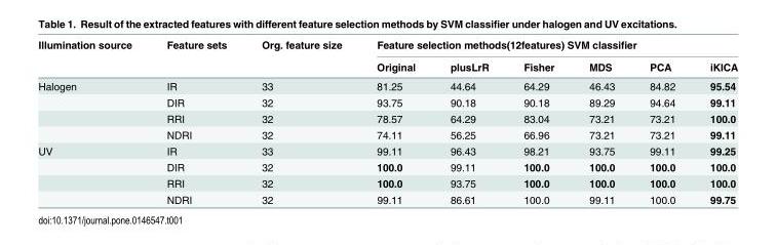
<table><thead><tr><td rowspan="2">Illumination source</td><td rowspan="2">Feature sets</td><td rowspan="2">Org. feature size</td><td colspan="6">Feature selection methods(12features) SVM classifier</td></tr><tr><td>Original</td><td>plusLrR</td><td>Fisher</td><td>MDS</td><td>PCA</td><td>iKICA</td></tr></thead><tbody><tr><td rowspan="4">Halogen</td><td>IR</td><td>33</td><td>81.25</td><td>44.64</td><td>64.29</td><td>46.43</td><td>84.82</td><td>95.54</td></tr><tr><td>DIR</td><td>32</td><td>93.75</td><td>90.18</td><td>90.18</td><td>89.29</td><td>94.64</td><td>99.11</td></tr><tr><td>RRI</td><td>32</td><td>78.57</td><td>64.29</td><td>83.04</td><td>73.21</td><td>73.21</td><td>100.0</td></tr><tr><td>NDRI</td><td>32</td><td>74.11</td><td>56.25</td><td>66.96</td><td>73.21</td><td>73.21</td><td>99.11</td></tr><tr><td rowspan="4">UV</td><td>IR</td><td>33</td><td>99.11</td><td>96.43</td><td>98.21</td><td>93.75</td><td>99.11</td><td>99.25</td></tr><tr><td>DIR</td><td>32</td><td>100.0</td><td>99.11</td><td>100.0</td><td>100.0</td><td>100.0</td><td>100.0</td></tr><tr><td>RRI</td><td>32</td><td>100.0</td><td>93.75</td><td>100.0</td><td>100.0</td><td>100.0</td><td>100.0</td></tr><tr><td>NDRI</td><td>32</td><td>99.11</td><td>86.61</td><td>100.0</td><td>99.11</td><td>100.0</td><td>99.75</td></tr></tbody></table>